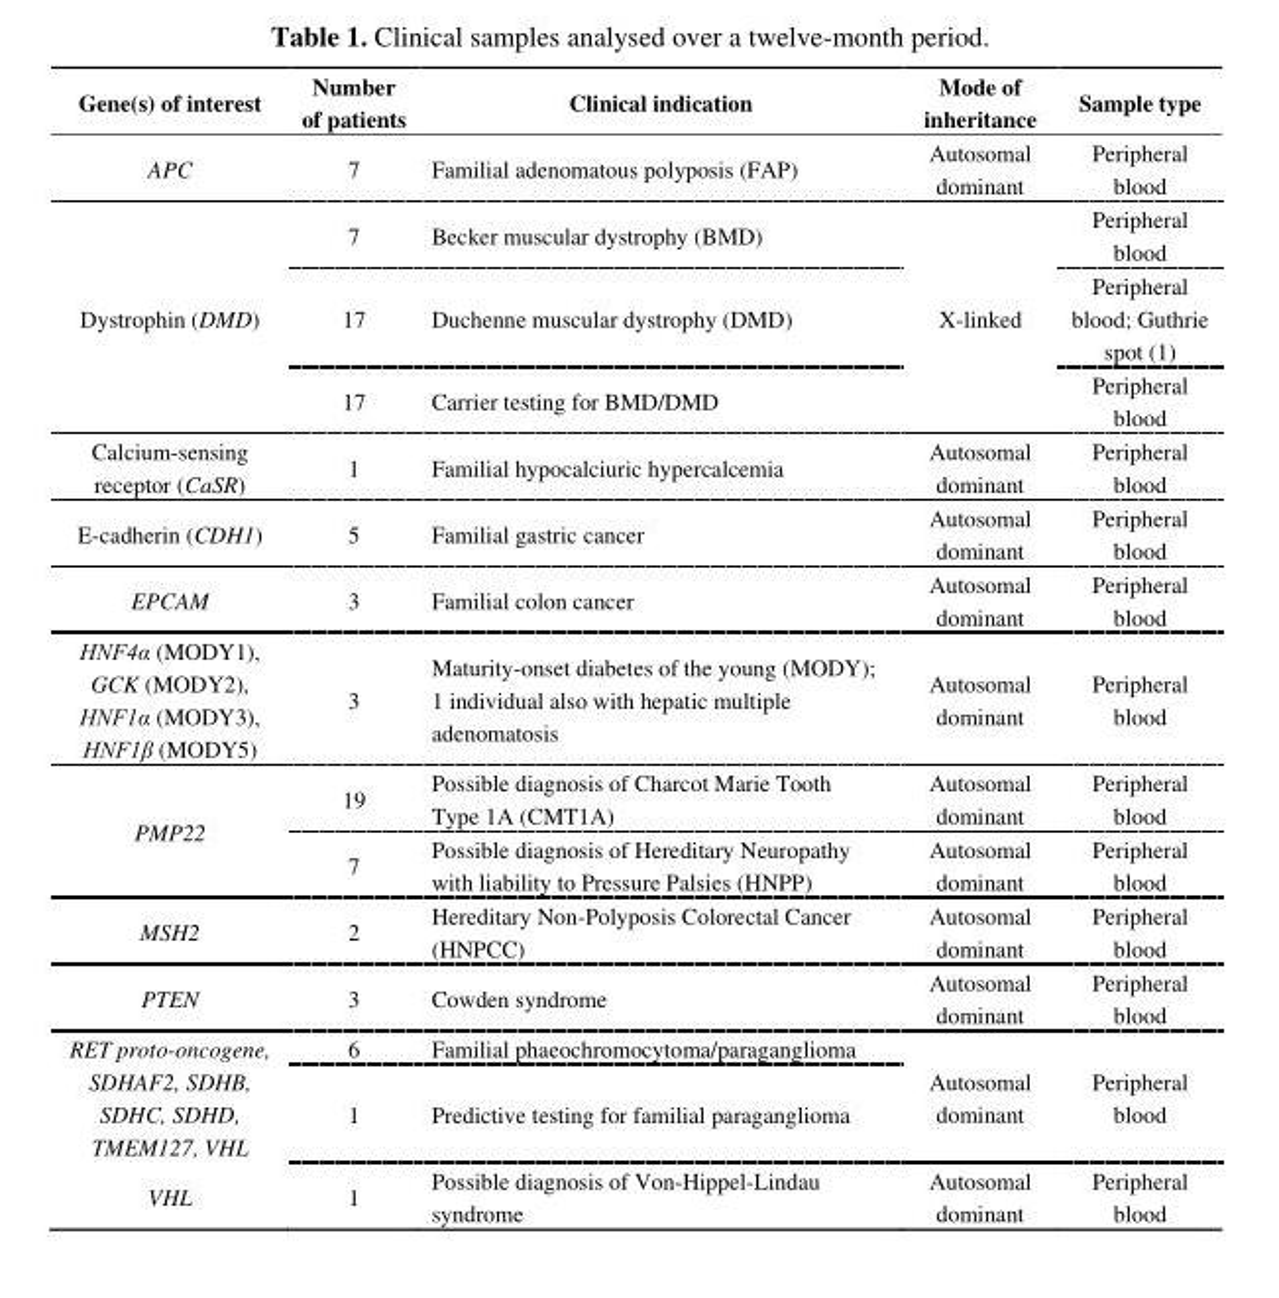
<table><thead><tr><td>Gene(s) of interest</td><td>Number of patients</td><td>Clinical indication</td><td>Mode of inheritance</td><td>Sample type</td></tr></thead><tbody><tr><td>APC</td><td>7</td><td>Familial adenomatous polyposis (FAP)</td><td>Autosomal dominant</td><td>Peripheral blood</td></tr><tr><td rowspan="3">Dystrophin (DMD)</td><td>7</td><td>Becker muscular dystrophy (BMD)</td><td rowspan="3">X-linked</td><td>Peripheral blood</td></tr><tr><td>17</td><td>Duchenne muscular dystrophy (DMD)</td><td>Peripheral blood; Guthrie spot (1)</td></tr><tr><td>17</td><td>Carrier testing for BMD/DMD</td><td>Peripheral blood</td></tr><tr><td>Calcium-sensing receptor (CaSR)</td><td>1</td><td>Familial hypocalciuric hypercalcemia</td><td>Autosomal dominant</td><td>Peripheral blood</td></tr><tr><td>E-cadherin (CDH1)</td><td>5</td><td>Familial gastric cancer</td><td>Autosomal dominant</td><td>Peripheral blood</td></tr><tr><td>EPCAM</td><td>3</td><td>Familial colon cancer</td><td>Autosomal dominant</td><td>Peripheral blood</td></tr><tr><td>HNF4α (MODY1), GCK (MODY2), HNF1α (MODY3), HNF1β (MODY5)</td><td>3</td><td>Maturity-onset diabetes of the young (MODY); 1 individual also with hepatic multiple adenomatosis</td><td>Autosomal dominant</td><td>Peripheral blood</td></tr><tr><td rowspan="2">PMP22</td><td>19</td><td>Possible diagnosis of Charcot Marie Tooth Type 1A (CMT1A)</td><td>Autosomal dominant</td><td>Peripheral blood</td></tr><tr><td>7</td><td>Possible diagnosis of Hereditary Neuropathy with liability to Pressure Palsies (HNPP)</td><td>Autosomal dominant</td><td>Peripheral blood</td></tr><tr><td>MSH2</td><td>2</td><td>Hereditary Non-Polyposis Colorectal Cancer (HNPCC)</td><td>Autosomal dominant</td><td>Peripheral blood</td></tr><tr><td>PTEN</td><td>3</td><td>Cowden syndrome</td><td>Autosomal dominant</td><td>Peripheral blood</td></tr><tr><td rowspan="2">RET proto-oncogene, SDHAF2, SDHB, SDHC, SDHD, TMEM127, VHL</td><td>6</td><td>Familial phaeochromocytoma/paraganglioma</td><td rowspan="2">Autosomal dominant</td><td rowspan="2">Peripheral blood</td></tr><tr><td>1</td><td>Predictive testing for familial paraganglioma</td></tr><tr><td>VHL</td><td>1</td><td>Possible diagnosis of Von-Hippel-Lindau syndrome</td><td>Autosomal dominant</td><td>Peripheral blood</td></tr></tbody></table>